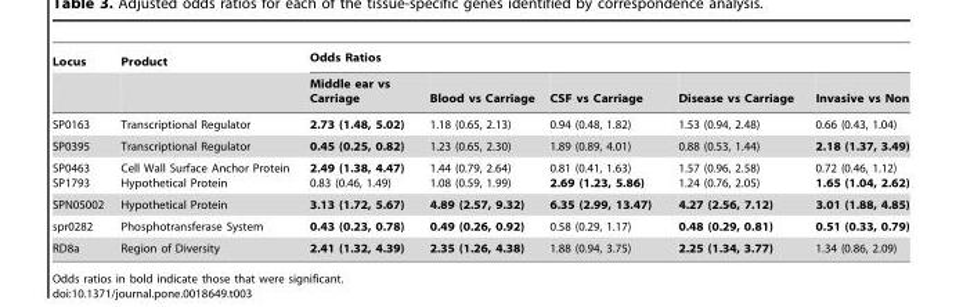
<table><thead><tr><td rowspan="2">Locus</td><td rowspan="2">Product</td><td colspan="5">Odds Ratios</td></tr><tr><td>Middle ear vs Carriage</td><td>Blood vs Carriage</td><td>CSF vs Carriage</td><td>Disease vs Carriage</td><td>Invasive vs Non</td></tr></thead><tbody><tr><td>SP0163</td><td>Transcriptional Regulator</td><td>2.73 (1.48, 5.02)</td><td>1.18 (0.65, 2.13)</td><td>0.94 (0.48, 1.82)</td><td>1.53 (0.94, 2.48)</td><td>0.66 (0.43, 1.04)</td></tr><tr><td>SP0395</td><td>Transcriptional Regulator</td><td>0.45 (0.25, 0.82)</td><td>1.23 (0.65, 2.30)</td><td>1.89 (0.89, 4.01)</td><td>0.88 (0.53, 1.44)</td><td>2.18 (1.37, 3.49)</td></tr><tr><td>SP0463 SP1793</td><td>Cell Wall Surface Anchor Protein Hypothetical Protein</td><td>2.49 (1.38, 4.47) 0.83 (0.46, 1.49)</td><td>1.44 (0.79, 2.64) 1.08 (0.59, 1.99)</td><td>0.81 (0.41, 1.63) 2.69 (1.23, 5.86)</td><td>1.57 (0.96, 2.58) 1.24 (0.76, 2.05)</td><td>0.72 (0.46, 1.12) 1.65 (1.04, 2.62)</td></tr><tr><td>SPN05002</td><td>Hypothetical Protein</td><td>3.13 (1.72, 5.67)</td><td>4.89 (2.57, 9.32)</td><td>6.35 (2.99, 13.47)</td><td>4.27 (2.56, 7.12)</td><td>3.01 (1.88, 4.85)</td></tr><tr><td>spr0282</td><td>Phosphotransferase System</td><td>0.43 (0.23, 0.78)</td><td>0.49 (0.26, 0.92)</td><td>0.58 (0.29, 1.17)</td><td>0.48 (0.29, 0.81)</td><td>0.51 (0.33, 0.79)</td></tr><tr><td>RD8a</td><td>Region of Diversity</td><td>2.41 (1.32, 4.39)</td><td>2.35 (1.26, 4.38)</td><td>1.88 (0.94, 3.75)</td><td>2.25 (1.34, 3.77)</td><td>1.34 (0.86, 2.09)</td></tr></tbody></table>